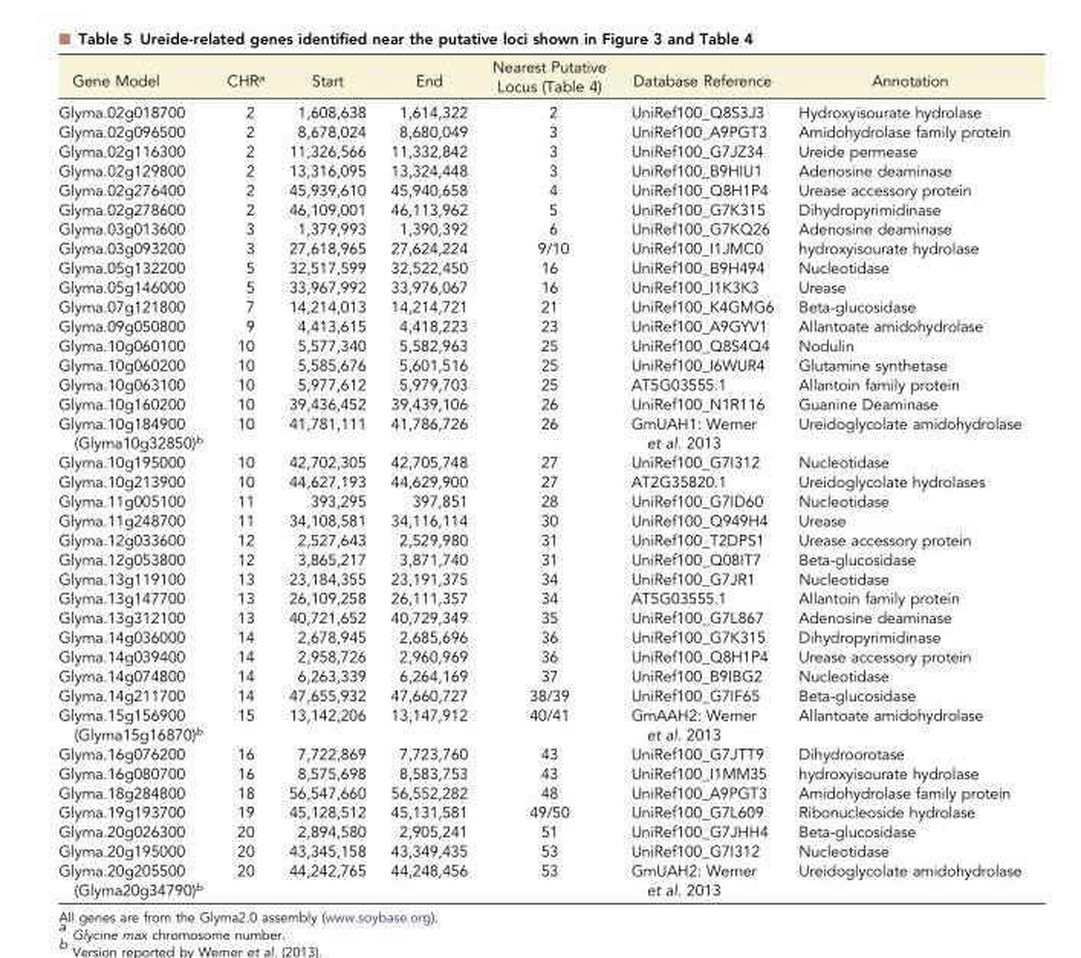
<table><thead><tr><td>Gene Model</td><td>CHR<sup>a</sup></td><td>Start</td><td>End</td><td>Nearest Putative Locus (Table 4)</td><td>Database Reference</td><td>Annotation</td></tr></thead><tbody><tr><td>Glyma.02g018700</td><td>2</td><td>1,608,638</td><td>1,614,322</td><td>2</td><td>UniRef100_Q8S3J3</td><td>Hydroxyisourate hydrolase</td></tr><tr><td>Glyma.02g096500</td><td>2</td><td>8,678,024</td><td>8,680,049</td><td>3</td><td>UniRef100_A9PGT3</td><td>Amidohydrolase family protein</td></tr><tr><td>Glyma.02g116300</td><td>2</td><td>11,326,566</td><td>11,332,842</td><td>3</td><td>UniRef100_G7JZ34</td><td>Ureide permease</td></tr><tr><td>Glyma.02g129800</td><td>2</td><td>13,316,095</td><td>13,324,448</td><td>3</td><td>UniRef100_B9HIU1</td><td>Adenosine deaminase</td></tr><tr><td>Glyma.02g276400</td><td>2</td><td>45,939,610</td><td>45,940,658</td><td>4</td><td>UniRef100_Q8H1P4</td><td>Urease accessory protein</td></tr><tr><td>Glyma.02g278600</td><td>2</td><td>46,109,001</td><td>46,113,962</td><td>5</td><td>UniRef100_G7K315</td><td>Dihydropyrimidinase</td></tr><tr><td>Glyma.03g013600</td><td>3</td><td>1,379,993</td><td>1,390,392</td><td>6</td><td>UniRef100_G7KQ26</td><td>Adenosine deaminase</td></tr><tr><td>Glyma.03g093200</td><td>3</td><td>27,618,965</td><td>27,624,224</td><td>9/10</td><td>UniRef100_I1JMC0</td><td>hydroxyisourate hydrolase</td></tr><tr><td>Glyma.05g132200</td><td>5</td><td>32,517,599</td><td>32,522,450</td><td>16</td><td>UniRef100_B9H494</td><td>Nucleotidase</td></tr><tr><td>Glyma.05g146000</td><td>5</td><td>33,967,992</td><td>33,976,067</td><td>16</td><td>UniRef100_I1K3K3</td><td>Urease</td></tr><tr><td>Glyma.07g121800</td><td>7</td><td>14,214,013</td><td>14,214,721</td><td>21</td><td>UniRef100_K4GMG6</td><td>Beta-glucosidase</td></tr><tr><td>Glyma.09g050800</td><td>9</td><td>4,413,615</td><td>4,418,223</td><td>23</td><td>UniRef100_A9GYV1</td><td>Allantoate amidohydrolase</td></tr><tr><td>Glyma.10g060100</td><td>10</td><td>5,577,340</td><td>5,582,963</td><td>25</td><td>UniRef100_Q8S4Q4</td><td>Nodulin</td></tr><tr><td>Glyma.10g060200</td><td>10</td><td>5,585,676</td><td>5,601,516</td><td>25</td><td>UniRef100_I6WUR4</td><td>Glutamine synthetase</td></tr><tr><td>Glyma.10g063100</td><td>10</td><td>5,977,612</td><td>5,979,703</td><td>25</td><td>AT5G03555.1</td><td>Allantoin family protein</td></tr><tr><td>Glyma.10g160200</td><td>10</td><td>39,436,452</td><td>39,439,106</td><td>26</td><td>UniRef100_N1R116</td><td>Guanine Deaminase</td></tr><tr><td>Glyma.10g184900 (Glyma10g32850)<sup>b</sup></td><td>10</td><td>41,781,111</td><td>41,786,726</td><td>26</td><td>GmUAH1: Werner et al. 2013</td><td>Ureidoglycolate amidohydrolase</td></tr><tr><td>Glyma.10g195000</td><td>10</td><td>42,702,305</td><td>42,705,748</td><td>27</td><td>UniRef100_G7I312</td><td>Nucleotidase</td></tr><tr><td>Glyma.10g213900</td><td>10</td><td>44,627,193</td><td>44,629,900</td><td>27</td><td>AT2G35820.1</td><td>Ureidoglycolate hydrolases</td></tr><tr><td>Glyma.11g005100</td><td>11</td><td>393,295</td><td>397,851</td><td>28</td><td>UniRef100_G7ID60</td><td>Nucleotidase</td></tr><tr><td>Glyma.11g248700</td><td>11</td><td>34,108,581</td><td>34,116,114</td><td>30</td><td>UniRef100_Q949H4</td><td>Urease</td></tr><tr><td>Glyma.12g033600</td><td>12</td><td>2,527,643</td><td>2,529,980</td><td>31</td><td>UniRef100_T2DPS1</td><td>Urease accessory protein</td></tr><tr><td>Glyma.12g053800</td><td>12</td><td>3,865,217</td><td>3,871,740</td><td>31</td><td>UniRef100_Q08IT7</td><td>Beta-glucosidase</td></tr><tr><td>Glyma.13g119100</td><td>13</td><td>23,184,355</td><td>23,191,375</td><td>34</td><td>UniRef100_G7JR1</td><td>Nucleotidase</td></tr><tr><td>Glyma.13g147700</td><td>13</td><td>26,109,258</td><td>26,111,357</td><td>34</td><td>AT5G03555.1</td><td>Allantoin family protein</td></tr><tr><td>Glyma.13g312100</td><td>13</td><td>40,721,652</td><td>40,729,349</td><td>35</td><td>UniRef100_G7L867</td><td>Adenosine deaminase</td></tr><tr><td>Glyma.14g036000</td><td>14</td><td>2,678,945</td><td>2,685,696</td><td>36</td><td>UniRef100_G7K315</td><td>Dihydropyrimidinase</td></tr><tr><td>Glyma.14g039400</td><td>14</td><td>2,958,726</td><td>2,960,969</td><td>36</td><td>UniRef100_Q8H1P4</td><td>Urease accessory protein</td></tr><tr><td>Glyma.14g074800</td><td>14</td><td>6,263,339</td><td>6,264,169</td><td>37</td><td>UniRef100_B9IBG2</td><td>Nucleotidase</td></tr><tr><td>Glyma.14g211700</td><td>14</td><td>47,655,932</td><td>47,660,727</td><td>38/39</td><td>UniRef100_G7IF65</td><td>Beta-glucosidase</td></tr><tr><td>Glyma.15g156900 (Glyma15g16870)<sup>b</sup></td><td>15</td><td>13,142,206</td><td>13,147,912</td><td>40/41</td><td>GmAAH2: Werner et al. 2013</td><td>Allantoate amidohydrolase</td></tr><tr><td>Glyma.16g076200</td><td>16</td><td>7,722,869</td><td>7,723,760</td><td>43</td><td>UniRef100_G7JTT9</td><td>Dihydroorotase</td></tr><tr><td>Glyma.16g080700</td><td>16</td><td>8,575,698</td><td>8,583,753</td><td>43</td><td>UniRef100_I1MM35</td><td>hydroxyisourate hydrolase</td></tr><tr><td>Glyma.18g284800</td><td>18</td><td>56,547,660</td><td>56,552,282</td><td>48</td><td>UniRef100_A9PGT3</td><td>Amidohydrolase family protein</td></tr><tr><td>Glyma.19g193700</td><td>19</td><td>45,128,512</td><td>45,131,581</td><td>49/50</td><td>UniRef100_G7L609</td><td>Ribonucleoside hydrolase</td></tr><tr><td>Glyma.20g026300</td><td>20</td><td>2,894,580</td><td>2,905,241</td><td>51</td><td>UniRef100_G7JHH4</td><td>Beta-glucosidase</td></tr><tr><td>Glyma.20g195000</td><td>20</td><td>43,345,158</td><td>43,349,435</td><td>53</td><td>UniRef100_G7I312</td><td>Nucleotidase</td></tr><tr><td>Glyma.20g205500 (Glyma20g34790)<sup>b</sup></td><td>20</td><td>44,242,765</td><td>44,248,456</td><td>53</td><td>GmUAH2: Werner et al. 2013</td><td>Ureidoglycolate amidohydrolase</td></tr></tbody></table>